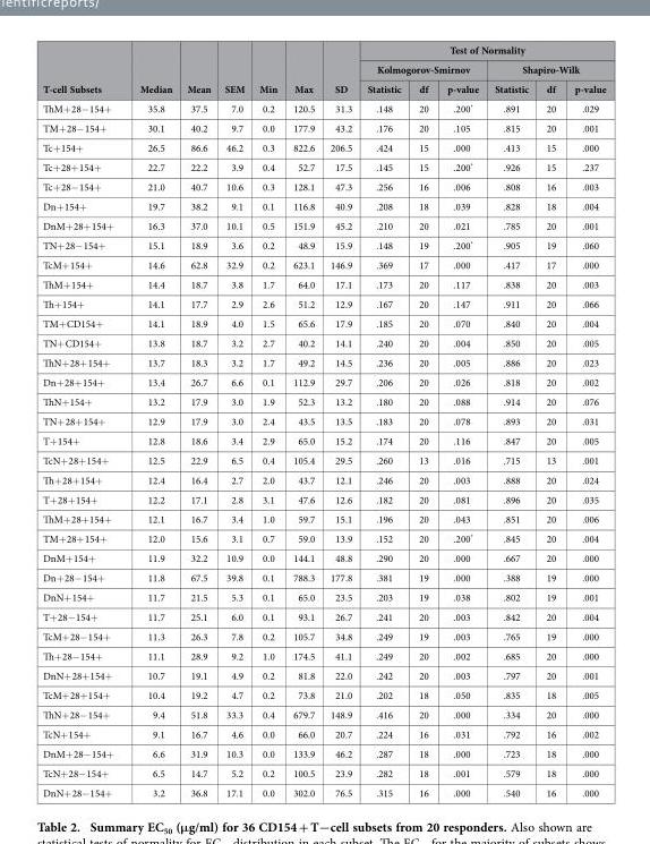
<table><thead><tr><td rowspan="3">T-cell Subsets</td><td rowspan="3">Median</td><td rowspan="3">Mean</td><td rowspan="3">SEM</td><td rowspan="3">Min</td><td rowspan="3">Max</td><td rowspan="3">SD</td><td colspan="6">Test of Normality</td></tr><tr><td colspan="3">Kolmogorov-Smirnov</td><td colspan="3">Shapiro-Wilk</td></tr><tr><td>Statistic</td><td>df</td><td>p-value</td><td>Statistic</td><td>df</td><td>p-value</td></tr></thead><tbody><tr><td>ThM+ 28− 154+</td><td>35.8</td><td>37.5</td><td>7.0</td><td>0.2</td><td>120.5</td><td>31.3</td><td>.148</td><td>20</td><td>.200*</td><td>.891</td><td>20</td><td>.029</td></tr><tr><td>TM+ 28− 154+</td><td>30.1</td><td>40.2</td><td>9.7</td><td>0.0</td><td>177.9</td><td>43.2</td><td>.176</td><td>20</td><td>.105</td><td>.815</td><td>20</td><td>.001</td></tr><tr><td>Tc+ 154+</td><td>26.5</td><td>86.6</td><td>46.2</td><td>0.3</td><td>822.6</td><td>206.5</td><td>.424</td><td>15</td><td>.000</td><td>.413</td><td>15</td><td>.000</td></tr><tr><td>Tc+ 28+ 154+</td><td>22.7</td><td>22.2</td><td>3.9</td><td>0.4</td><td>52.7</td><td>17.5</td><td>.145</td><td>15</td><td>.200*</td><td>.926</td><td>15</td><td>.237</td></tr><tr><td>Tc+ 28− 154+</td><td>21.0</td><td>40.7</td><td>10.6</td><td>0.3</td><td>128.1</td><td>47.3</td><td>.256</td><td>16</td><td>.006</td><td>.808</td><td>16</td><td>.003</td></tr><tr><td>Dn+ 154+</td><td>19.7</td><td>38.2</td><td>9.1</td><td>0.1</td><td>116.8</td><td>40.9</td><td>.208</td><td>18</td><td>.039</td><td>.828</td><td>18</td><td>.004</td></tr><tr><td>DnM+ 28+ 154+</td><td>16.3</td><td>37.0</td><td>10.1</td><td>0.5</td><td>151.9</td><td>45.2</td><td>.210</td><td>20</td><td>.021</td><td>.785</td><td>20</td><td>.001</td></tr><tr><td>TN+ 28− 154+</td><td>15.1</td><td>18.9</td><td>3.6</td><td>0.2</td><td>48.9</td><td>15.9</td><td>.148</td><td>19</td><td>.200*</td><td>.905</td><td>19</td><td>.060</td></tr><tr><td>TcM+ 154+</td><td>14.6</td><td>62.8</td><td>32.9</td><td>0.2</td><td>623.1</td><td>146.9</td><td>.369</td><td>17</td><td>.000</td><td>.417</td><td>17</td><td>.000</td></tr><tr><td>ThM+ 154+</td><td>14.4</td><td>18.7</td><td>3.8</td><td>1.7</td><td>64.0</td><td>17.1</td><td>.173</td><td>20</td><td>.117</td><td>.838</td><td>20</td><td>.003</td></tr><tr><td>Th+ 154+</td><td>14.1</td><td>17.7</td><td>2.9</td><td>2.6</td><td>51.2</td><td>12.9</td><td>.167</td><td>20</td><td>.147</td><td>.911</td><td>20</td><td>.066</td></tr><tr><td>TM+ CD154+</td><td>14.1</td><td>18.9</td><td>4.0</td><td>1.5</td><td>65.6</td><td>17.9</td><td>.185</td><td>20</td><td>.070</td><td>.840</td><td>20</td><td>.004</td></tr><tr><td>TN+ CD154+</td><td>13.8</td><td>18.7</td><td>3.2</td><td>2.7</td><td>40.2</td><td>14.1</td><td>.240</td><td>20</td><td>.004</td><td>.850</td><td>20</td><td>.005</td></tr><tr><td>ThN+ 28+ 154+</td><td>13.7</td><td>18.3</td><td>3.2</td><td>1.7</td><td>49.2</td><td>14.5</td><td>.236</td><td>20</td><td>.005</td><td>.886</td><td>20</td><td>.023</td></tr><tr><td>Dn+ 28+ 154+</td><td>13.4</td><td>26.7</td><td>6.6</td><td>0.1</td><td>112.9</td><td>29.7</td><td>.206</td><td>20</td><td>.026</td><td>.818</td><td>20</td><td>.002</td></tr><tr><td>ThN+ 154+</td><td>13.2</td><td>17.9</td><td>3.0</td><td>1.9</td><td>52.3</td><td>13.2</td><td>.180</td><td>20</td><td>.088</td><td>.914</td><td>20</td><td>.076</td></tr><tr><td>TN+ 28+ 154+</td><td>12.9</td><td>17.9</td><td>3.0</td><td>2.4</td><td>43.5</td><td>13.5</td><td>.183</td><td>20</td><td>.078</td><td>.893</td><td>20</td><td>.031</td></tr><tr><td>T+ 154+</td><td>12.8</td><td>18.6</td><td>3.4</td><td>2.9</td><td>65.0</td><td>15.2</td><td>.174</td><td>20</td><td>.116</td><td>.847</td><td>20</td><td>.005</td></tr><tr><td>TcN+ 28+ 154+</td><td>12.5</td><td>22.9</td><td>6.5</td><td>0.4</td><td>105.4</td><td>29.5</td><td>.260</td><td>13</td><td>.016</td><td>.715</td><td>13</td><td>.001</td></tr><tr><td>Th+ 28+ 154+</td><td>12.4</td><td>16.4</td><td>2.7</td><td>2.0</td><td>43.7</td><td>12.1</td><td>.246</td><td>20</td><td>.003</td><td>.888</td><td>20</td><td>.024</td></tr><tr><td>T+ 28+ 154+</td><td>12.2</td><td>17.1</td><td>2.8</td><td>3.1</td><td>47.6</td><td>12.6</td><td>.182</td><td>20</td><td>.081</td><td>.896</td><td>20</td><td>.035</td></tr><tr><td>ThM+ 28+ 154+</td><td>12.1</td><td>16.7</td><td>3.4</td><td>1.0</td><td>59.7</td><td>15.1</td><td>.196</td><td>20</td><td>.043</td><td>.851</td><td>20</td><td>.006</td></tr><tr><td>TM+ 28+ 154+</td><td>12.0</td><td>15.6</td><td>3.1</td><td>0.7</td><td>59.0</td><td>13.9</td><td>.152</td><td>20</td><td>.200*</td><td>.845</td><td>20</td><td>.004</td></tr><tr><td>DnM+ 154+</td><td>11.9</td><td>32.2</td><td>10.9</td><td>0.0</td><td>144.1</td><td>48.8</td><td>.290</td><td>20</td><td>.000</td><td>.667</td><td>20</td><td>.000</td></tr><tr><td>Dn+ 28− 154+</td><td>11.8</td><td>67.5</td><td>39.8</td><td>0.1</td><td>788.3</td><td>177.8</td><td>.381</td><td>19</td><td>.000</td><td>.388</td><td>19</td><td>.000</td></tr><tr><td>DnN+ 154+</td><td>11.7</td><td>21.5</td><td>5.3</td><td>0.1</td><td>65.0</td><td>23.5</td><td>.203</td><td>19</td><td>.038</td><td>.802</td><td>19</td><td>.001</td></tr><tr><td>T+ 28− 154+</td><td>11.7</td><td>25.1</td><td>6.0</td><td>0.1</td><td>93.1</td><td>26.7</td><td>.241</td><td>20</td><td>.003</td><td>.842</td><td>20</td><td>.004</td></tr><tr><td>TcM+ 28− 154+</td><td>11.3</td><td>26.3</td><td>7.8</td><td>0.2</td><td>105.7</td><td>34.8</td><td>.249</td><td>19</td><td>.003</td><td>.765</td><td>19</td><td>.000</td></tr><tr><td>Th+ 28− 154+</td><td>11.1</td><td>28.9</td><td>9.2</td><td>1.0</td><td>174.5</td><td>41.1</td><td>.249</td><td>20</td><td>.002</td><td>.685</td><td>20</td><td>.000</td></tr><tr><td>DnN+ 28+ 154+</td><td>10.7</td><td>19.1</td><td>4.9</td><td>0.2</td><td>81.8</td><td>22.0</td><td>.242</td><td>20</td><td>.003</td><td>.797</td><td>20</td><td>.001</td></tr><tr><td>TcM+ 28+ 154+</td><td>10.4</td><td>19.2</td><td>4.7</td><td>0.2</td><td>73.8</td><td>21.0</td><td>.202</td><td>18</td><td>.050</td><td>.835</td><td>18</td><td>.005</td></tr><tr><td>ThN+ 28− 154+</td><td>9.4</td><td>51.8</td><td>33.3</td><td>0.4</td><td>679.7</td><td>148.9</td><td>.416</td><td>20</td><td>.000</td><td>.334</td><td>20</td><td>.000</td></tr><tr><td>TcN+ 154+</td><td>9.1</td><td>16.7</td><td>4.6</td><td>0.0</td><td>66.0</td><td>20.7</td><td>.224</td><td>16</td><td>.031</td><td>.792</td><td>16</td><td>.002</td></tr><tr><td>DnM+ 28− 154+</td><td>6.6</td><td>31.9</td><td>10.3</td><td>0.0</td><td>133.9</td><td>46.2</td><td>.287</td><td>18</td><td>.000</td><td>.723</td><td>18</td><td>.000</td></tr><tr><td>TcN+ 28− 154+</td><td>6.5</td><td>14.7</td><td>5.2</td><td>0.2</td><td>100.5</td><td>23.9</td><td>.282</td><td>18</td><td>.001</td><td>.579</td><td>18</td><td>.000</td></tr><tr><td>DnN+ 28− 154+</td><td>3.2</td><td>36.8</td><td>17.1</td><td>0.0</td><td>302.0</td><td>76.5</td><td>.315</td><td>16</td><td>.000</td><td>.540</td><td>16</td><td>.000</td></tr></tbody></table>